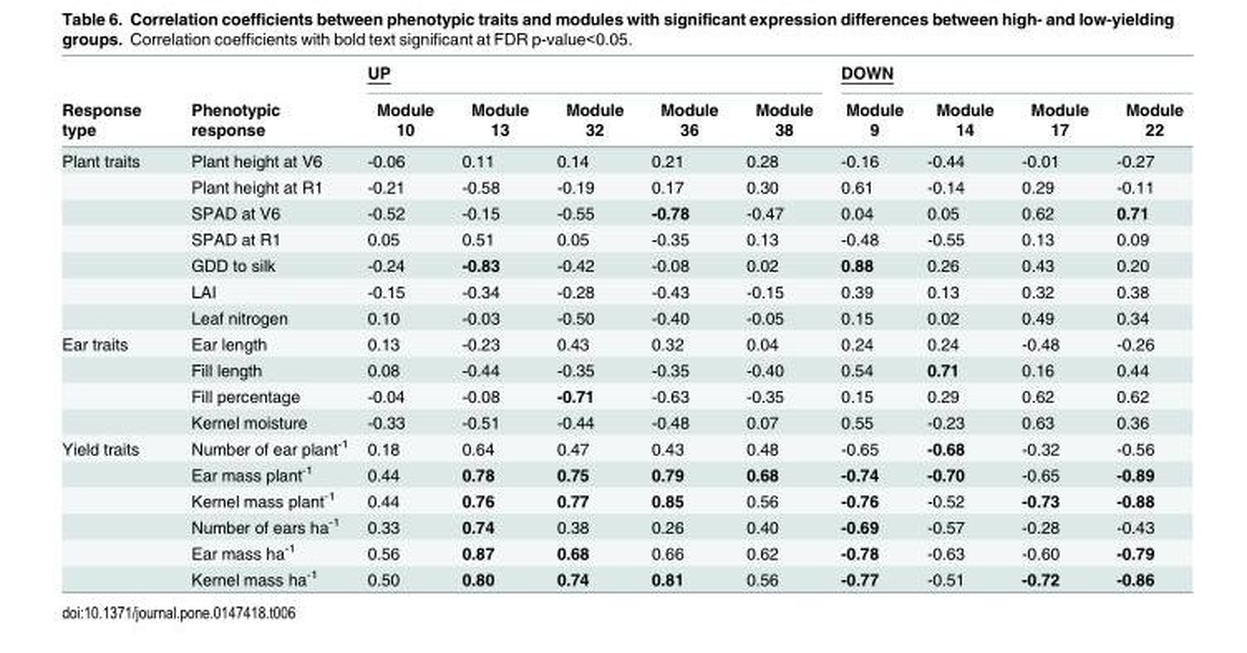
<table><thead><tr><td rowspan="2">Response type</td><td rowspan="2">Phenotypic response</td><td colspan="5">UP</td><td colspan="4">DOWN</td></tr><tr><td>Module 10</td><td>Module 13</td><td>Module 32</td><td>Module 36</td><td>Module 38</td><td>Module 9</td><td>Module 14</td><td>Module 17</td><td>Module 22</td></tr></thead><tbody><tr><td rowspan="7">Plant traits</td><td>Plant height at V6</td><td>-0.06</td><td>0.11</td><td>0.14</td><td>0.21</td><td>0.28</td><td>-0.16</td><td>-0.44</td><td>-0.01</td><td>-0.27</td></tr><tr><td>Plant height at R1</td><td>-0.21</td><td>-0.58</td><td>-0.19</td><td>0.17</td><td>0.30</td><td>0.61</td><td>-0.14</td><td>0.29</td><td>-0.11</td></tr><tr><td>SPAD at V6</td><td>-0.52</td><td>-0.15</td><td>-0.55</td><td>-0.78</td><td>-0.47</td><td>0.04</td><td>0.05</td><td>0.62</td><td>0.71</td></tr><tr><td>SPAD at R1</td><td>0.05</td><td>0.51</td><td>0.05</td><td>-0.35</td><td>0.13</td><td>-0.48</td><td>-0.55</td><td>0.13</td><td>0.09</td></tr><tr><td>GDD to silk</td><td>-0.24</td><td>-0.83</td><td>-0.42</td><td>-0.08</td><td>0.02</td><td>0.88</td><td>0.26</td><td>0.43</td><td>0.20</td></tr><tr><td>LAI</td><td>-0.15</td><td>-0.34</td><td>-0.28</td><td>-0.43</td><td>-0.15</td><td>0.39</td><td>0.13</td><td>0.32</td><td>0.38</td></tr><tr><td>Leaf nitrogen</td><td>0.10</td><td>-0.03</td><td>-0.50</td><td>-0.40</td><td>-0.05</td><td>0.15</td><td>0.02</td><td>0.49</td><td>0.34</td></tr><tr><td rowspan="4">Ear traits</td><td>Ear length</td><td>0.13</td><td>-0.23</td><td>0.43</td><td>0.32</td><td>0.04</td><td>0.24</td><td>0.24</td><td>-0.48</td><td>-0.26</td></tr><tr><td>Fill length</td><td>0.08</td><td>-0.44</td><td>-0.35</td><td>-0.35</td><td>-0.40</td><td>0.54</td><td>0.71</td><td>0.16</td><td>0.44</td></tr><tr><td>Fill percentage</td><td>-0.04</td><td>-0.08</td><td>-0.71</td><td>-0.63</td><td>-0.35</td><td>0.15</td><td>0.29</td><td>0.62</td><td>0.62</td></tr><tr><td>Kernel moisture</td><td>-0.33</td><td>-0.51</td><td>-0.44</td><td>-0.48</td><td>0.07</td><td>0.55</td><td>-0.23</td><td>0.63</td><td>0.36</td></tr><tr><td rowspan="6">Yield traits</td><td>Number of ear plant<sup>-1</sup></td><td>0.18</td><td>0.64</td><td>0.47</td><td>0.43</td><td>0.48</td><td>-0.65</td><td>-0.68</td><td>-0.32</td><td>-0.56</td></tr><tr><td>Ear mass plant<sup>-1</sup></td><td>0.44</td><td>0.78</td><td>0.75</td><td>0.79</td><td>0.68</td><td>-0.74</td><td>-0.70</td><td>-0.65</td><td>-0.89</td></tr><tr><td>Kernel mass plant<sup>-1</sup></td><td>0.44</td><td>0.76</td><td>0.77</td><td>0.85</td><td>0.56</td><td>-0.76</td><td>-0.52</td><td>-0.73</td><td>-0.88</td></tr><tr><td>Number of ears ha<sup>-1</sup></td><td>0.33</td><td>0.74</td><td>0.38</td><td>0.26</td><td>0.40</td><td>-0.69</td><td>-0.57</td><td>-0.28</td><td>-0.43</td></tr><tr><td>Ear mass ha<sup>-1</sup></td><td>0.56</td><td>0.87</td><td>0.68</td><td>0.66</td><td>0.62</td><td>-0.78</td><td>-0.63</td><td>-0.60</td><td>-0.79</td></tr><tr><td>Kernel mass ha<sup>-1</sup></td><td>0.50</td><td>0.80</td><td>0.74</td><td>0.81</td><td>0.56</td><td>-0.77</td><td>-0.51</td><td>-0.72</td><td>-0.86</td></tr></tbody></table>